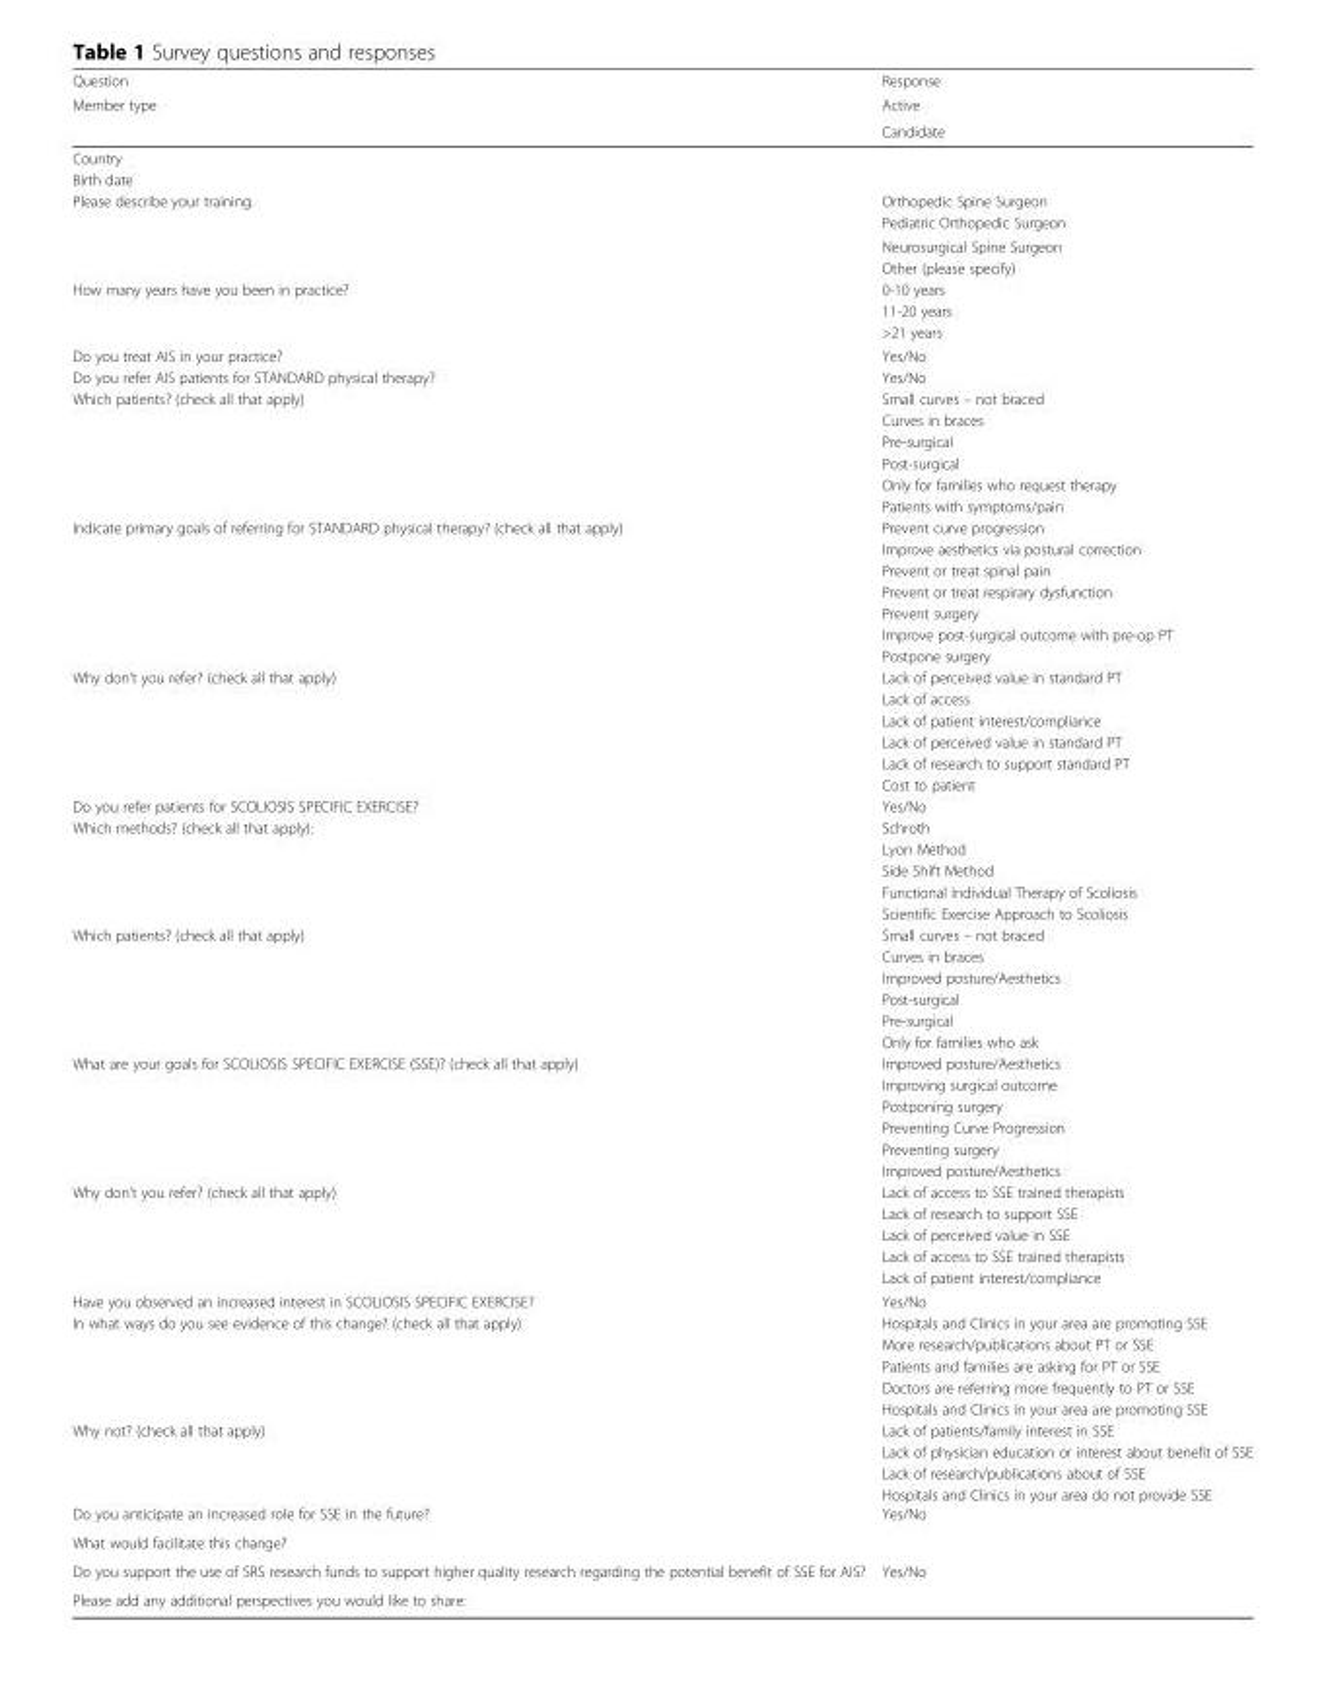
<table><thead><tr><td rowspan="3">Question Member type</td><td rowspan="3">Response Active Candidate</td></tr><tr></tr><tr></tr></thead><tbody><tr><td colspan="2">Country</td></tr><tr><td colspan="2">Birth date</td></tr><tr><td rowspan="4">Please describe your training.</td><td>Orthopedic Spine Surgeon</td></tr><tr><td>Pediatric Orthopedic Surgeon</td></tr><tr><td>Neurosurgical Spine Surgeon</td></tr><tr><td>Other (please specify)</td></tr><tr><td rowspan="3">How many years have you been in practice?</td><td>0-10 years</td></tr><tr><td>11-20 years</td></tr><tr><td>&gt;21 years</td></tr><tr><td>Do you treat AIS in your practice?</td><td>Yes/No</td></tr><tr><td>Do you refer AIS patients for STANDARD physical therapy?</td><td>Yes/No</td></tr><tr><td rowspan="6">Which patients? (check all that apply)</td><td>Small curves – not braced</td></tr><tr><td>Curves in braces</td></tr><tr><td>Pre-surgical</td></tr><tr><td>Post-surgical</td></tr><tr><td>Only for families who request therapy</td></tr><tr><td>Patients with symptoms/pain</td></tr><tr><td rowspan="7">Indicate primary goals of referring for STANDARD physical therapy? (check all that apply)</td><td>Prevent curve progression</td></tr><tr><td>Improve aesthetics via postural correction</td></tr><tr><td>Prevent or treat spinal pain</td></tr><tr><td>Prevent or treat respirary dysfunction</td></tr><tr><td>Prevent surgery</td></tr><tr><td>Improve post-surgical outcome with pre-op PT</td></tr><tr><td>Postpone surgery</td></tr><tr><td rowspan="6">Why don’t you refer? (check all that apply)</td><td>Lack of perceived value in standard PT</td></tr><tr><td>Lack of access</td></tr><tr><td>Lack of patient interest/compliance</td></tr><tr><td>Lack of perceived value in standard PT</td></tr><tr><td>Lack of research to support standard PT</td></tr><tr><td>Cost to patient</td></tr><tr><td>Do you refer patients for SCOLIOSIS SPECIFIC EXERCISE?</td><td>Yes/No</td></tr><tr><td rowspan="5">Which methods? (check all that apply):</td><td>Schroth</td></tr><tr><td>Lyon Method</td></tr><tr><td>Side Shift Method</td></tr><tr><td>Functional Individual Therapy of Scoliosis</td></tr><tr><td>Scientific Exercise Approach to Scoliosis</td></tr><tr><td rowspan="6">Which patients? (check all that apply)</td><td>Small curves – not braced</td></tr><tr><td>Curves in braces</td></tr><tr><td>Improved posture/Aesthetics</td></tr><tr><td>Post-surgical</td></tr><tr><td>Pre-surgical</td></tr><tr><td>Only for families who ask</td></tr><tr><td rowspan="6">What are your goals for SCOLIOSIS SPECIFIC EXERCISE (SSE)? (check all that apply)</td><td>Improved posture/Aesthetics</td></tr><tr><td>Improving surgical outcome</td></tr><tr><td>Postponing surgery</td></tr><tr><td>Preventing Curve Progression</td></tr><tr><td>Preventing surgery</td></tr><tr><td>Improved posture/Aesthetics</td></tr><tr><td rowspan="5">Why don’t you refer? (check all that apply)</td><td>Lack of access to SSE trained therapists</td></tr><tr><td>Lack of research to support SSE</td></tr><tr><td>Lack of perceived value in SSE</td></tr><tr><td>Lack of access to SSE trained therapists</td></tr><tr><td>Lack of patient interest/compliance</td></tr><tr><td>Have you observed an increased interest in SCOLIOSIS SPECIFIC EXERCISE?</td><td>Yes/No</td></tr><tr><td rowspan="5">In what ways do you see evidence of this change? (check all that apply)</td><td>Hospitals and Clinics in your area are promoting SSE</td></tr><tr><td>More research/publications about PT or SSE</td></tr><tr><td>Patients and families are asking for PT or SSE</td></tr><tr><td>Doctors are referring more frequently to PT or SSE</td></tr><tr><td>Hospitals and Clinics in your area are promoting SSE</td></tr><tr><td rowspan="4">Why not? (check all that apply)</td><td>Lack of patients/family interest in SSE</td></tr><tr><td>Lack of physician education or interest about benefit of SSE</td></tr><tr><td>Lack of research/publications about of SSE</td></tr><tr><td>Hospitals and Clinics in your area do not provide SSE</td></tr><tr><td>Do you anticipate an increased role for SSE in the future?</td><td>Yes/No</td></tr><tr><td colspan="2">What would facilitate this change?</td></tr><tr><td>Do you support the use of SRS research funds to support higher quality research regarding the potential benefit of SSE for AIS?</td><td>Yes/No</td></tr><tr><td>Please add any additional perspectives you would like to share:</td><td></td></tr></tbody></table>